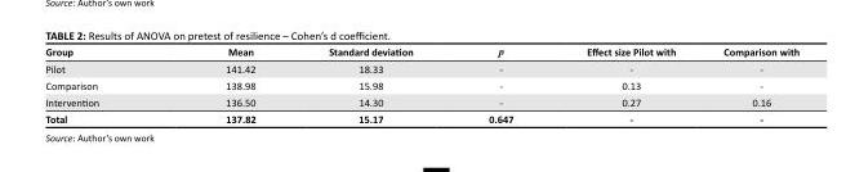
<table><thead><tr><td>Group</td><td>Mean</td><td>Standard deviation</td><td>p</td><td>Effect size Pilot with</td><td>Comparison with</td></tr></thead><tbody><tr><td>Pilot</td><td>141.42</td><td>18.33</td><td>-</td><td>-</td><td>-</td></tr><tr><td>Comparison</td><td>138.98</td><td>15.98</td><td>-</td><td>0.13</td><td>-</td></tr><tr><td>Intervention</td><td>136.50</td><td>14.30</td><td>-</td><td>0.27</td><td>0.16</td></tr><tr><td>Total</td><td>137.82</td><td>15.17</td><td>0.647</td><td>-</td><td>-</td></tr></tbody></table>